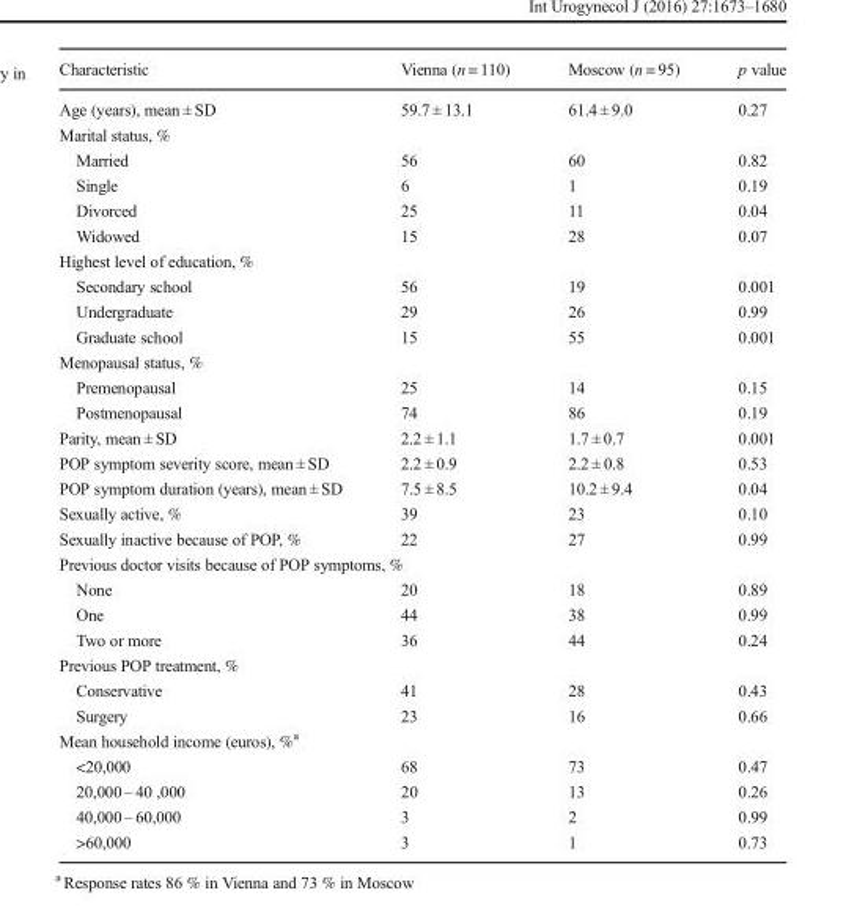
<table><thead><tr><td>Characteristic</td><td>Vienna (n = 110)</td><td>Moscow (n = 95)</td><td>p value</td></tr></thead><tbody><tr><td>Age (years), mean ± SD</td><td>59.7 ± 13.1</td><td>61.4 ± 9.0</td><td>0.27</td></tr><tr><td colspan="4">Marital status, %</td></tr><tr><td>Married</td><td>56</td><td>60</td><td>0.82</td></tr><tr><td>Single</td><td>6</td><td>1</td><td>0.19</td></tr><tr><td>Divorced</td><td>25</td><td>11</td><td>0.04</td></tr><tr><td>Widowed</td><td>15</td><td>28</td><td>0.07</td></tr><tr><td colspan="4">Highest level of education, %</td></tr><tr><td>Secondary school</td><td>56</td><td>19</td><td>0.001</td></tr><tr><td>Undergraduate</td><td>29</td><td>26</td><td>0.99</td></tr><tr><td>Graduate school</td><td>15</td><td>55</td><td>0.001</td></tr><tr><td colspan="4">Menopausal status, %</td></tr><tr><td>Premenopausal</td><td>25</td><td>14</td><td>0.15</td></tr><tr><td>Postmenopausal</td><td>74</td><td>86</td><td>0.19</td></tr><tr><td>Parity, mean ± SD</td><td>2.2 ± 1.1</td><td>1.7 ± 0.7</td><td>0.001</td></tr><tr><td>POP symptom severity score, mean ± SD</td><td>2.2 ± 0.9</td><td>2.2 ± 0.8</td><td>0.53</td></tr><tr><td>POP symptom duration (years), mean ± SD</td><td>7.5 ± 8.5</td><td>10.2 ± 9.4</td><td>0.04</td></tr><tr><td>Sexually active, %</td><td>39</td><td>23</td><td>0.10</td></tr><tr><td>Sexually inactive because of POP, %</td><td>22</td><td>27</td><td>0.99</td></tr><tr><td colspan="4">Previous doctor visits because of POP symptoms, %</td></tr><tr><td>None</td><td>20</td><td>18</td><td>0.89</td></tr><tr><td>One</td><td>44</td><td>38</td><td>0.99</td></tr><tr><td>Two or more</td><td>36</td><td>44</td><td>0.24</td></tr><tr><td colspan="4">Previous POP treatment, %</td></tr><tr><td>Conservative</td><td>41</td><td>28</td><td>0.43</td></tr><tr><td>Surgery</td><td>23</td><td>16</td><td>0.66</td></tr><tr><td colspan="4">Mean household income (euros), %<sup>a</sup></td></tr><tr><td>&lt;20,000</td><td>68</td><td>73</td><td>0.47</td></tr><tr><td>20,000 – 40 ,000</td><td>20</td><td>13</td><td>0.26</td></tr><tr><td>40,000 – 60,000</td><td>3</td><td>2</td><td>0.99</td></tr><tr><td>&gt;60,000</td><td>3</td><td>1</td><td>0.73</td></tr></tbody></table>